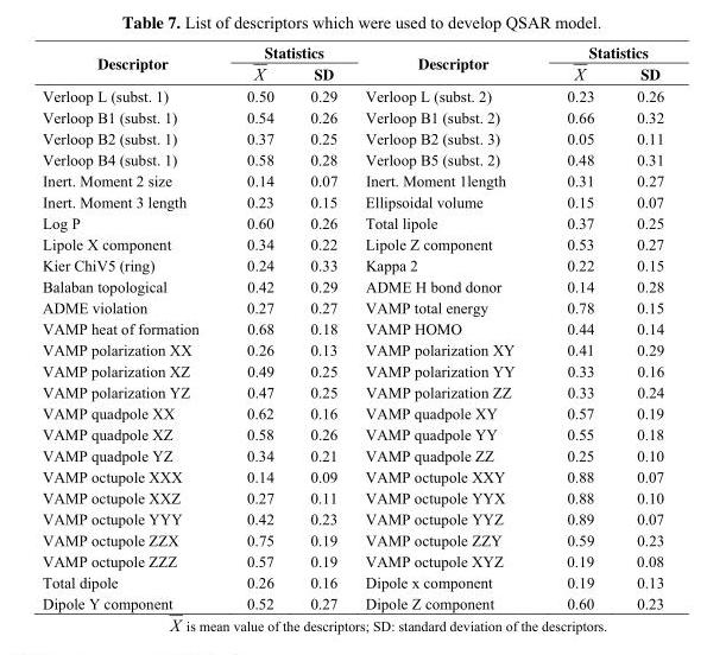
<table><thead><tr><td rowspan="2">Descriptor</td><td colspan="2">Statistics</td><td rowspan="2">Descriptor</td><td colspan="2">Statistics</td></tr><tr><td>X</td><td>SD</td><td>X</td><td>SD</td></tr></thead><tbody><tr><td>Verloop L (subst. 1)</td><td>0.50</td><td>0.29</td><td>Verloop L (subst. 2)</td><td>0.23</td><td>0.26</td></tr><tr><td>Verloop B1 (subst. 1)</td><td>0.54</td><td>0.26</td><td>Verloop B1 (subst. 2)</td><td>0.66</td><td>0.32</td></tr><tr><td>Verloop B2 (subst. 1)</td><td>0.37</td><td>0.25</td><td>Verloop B2 (subst. 3)</td><td>0.05</td><td>0.11</td></tr><tr><td>Verloop B4 (subst. 1)</td><td>0.58</td><td>0.28</td><td>Verloop B5 (subst. 2)</td><td>0.48</td><td>0.31</td></tr><tr><td>Inert. Moment 2 size</td><td>0.14</td><td>0.07</td><td>Inert. Moment 1length</td><td>0.31</td><td>0.27</td></tr><tr><td>Inert. Moment 3 length</td><td>0.23</td><td>0.15</td><td>Ellipsoidal volume</td><td>0.15</td><td>0.07</td></tr><tr><td>Log P</td><td>0.60</td><td>0.26</td><td>Total lipole</td><td>0.37</td><td>0.25</td></tr><tr><td>Lipole X component</td><td>0.34</td><td>0.22</td><td>Lipole Z component</td><td>0.53</td><td>0.27</td></tr><tr><td>Kier ChiV5 (ring)</td><td>0.24</td><td>0.33</td><td>Kappa 2</td><td>0.22</td><td>0.15</td></tr><tr><td>Balaban topological</td><td>0.42</td><td>0.29</td><td>ADME H bond donor</td><td>0.14</td><td>0.28</td></tr><tr><td>ADME violation</td><td>0.27</td><td>0.27</td><td>VAMP total energy</td><td>0.78</td><td>0.15</td></tr><tr><td>VAMP heat of formation</td><td>0.68</td><td>0.18</td><td>VAMP HOMO</td><td>0.44</td><td>0.14</td></tr><tr><td>VAMP polarization XX</td><td>0.26</td><td>0.13</td><td>VAMP polarization XY</td><td>0.41</td><td>0.29</td></tr><tr><td>VAMP polarization XZ</td><td>0.49</td><td>0.25</td><td>VAMP polarization YY</td><td>0.33</td><td>0.16</td></tr><tr><td>VAMP polarization YZ</td><td>0.47</td><td>0.25</td><td>VAMP polarization ZZ</td><td>0.33</td><td>0.24</td></tr><tr><td>VAMP quadpole XX</td><td>0.62</td><td>0.16</td><td>VAMP quadpole XY</td><td>0.57</td><td>0.19</td></tr><tr><td>VAMP quadpole XZ</td><td>0.58</td><td>0.26</td><td>VAMP quadpole YY</td><td>0.55</td><td>0.18</td></tr><tr><td>VAMP quadpole YZ</td><td>0.34</td><td>0.21</td><td>VAMP quadpole ZZ</td><td>0.25</td><td>0.10</td></tr><tr><td>VAMP octupole XXX</td><td>0.14</td><td>0.09</td><td>VAMP octupole XXY</td><td>0.88</td><td>0.07</td></tr><tr><td>VAMP octupole XXZ</td><td>0.27</td><td>0.11</td><td>VAMP octupole YYX</td><td>0.88</td><td>0.10</td></tr><tr><td>VAMP octupole YYY</td><td>0.42</td><td>0.23</td><td>VAMP octupole YYZ</td><td>0.89</td><td>0.07</td></tr><tr><td>VAMP octupole ZZX</td><td>0.75</td><td>0.19</td><td>VAMP octupole ZZY</td><td>0.59</td><td>0.23</td></tr><tr><td>VAMP octupole ZZZ</td><td>0.57</td><td>0.19</td><td>VAMP octupole XYZ</td><td>0.19</td><td>0.08</td></tr><tr><td>Total dipole</td><td>0.26</td><td>0.16</td><td>Dipole x component</td><td>0.19</td><td>0.13</td></tr><tr><td>Dipole Y component</td><td>0.52</td><td>0.27</td><td>Dipole Z component</td><td>0.60</td><td>0.23</td></tr></tbody></table>